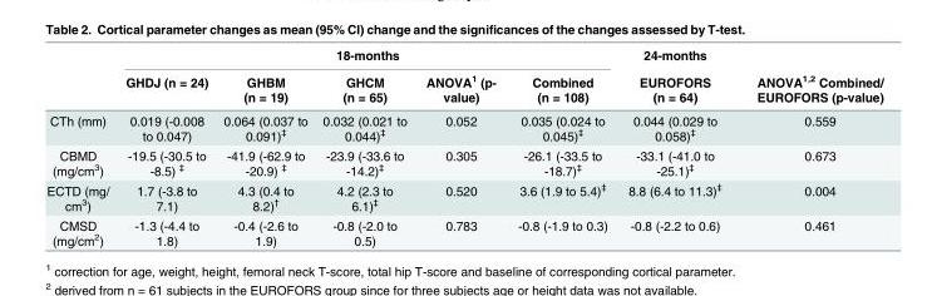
<table><thead><tr><td rowspan="2"></td><td colspan="5">18-months</td><td rowspan="2">24-months EUROFORS (n = 64)</td><td rowspan="2">ANOVA<sup>1,2</sup> Combined/ EUROFORS (p-value)</td></tr><tr><td>GHDJ (n = 24)</td><td>GHBM (n = 19)</td><td>GHCM (n = 65)</td><td>ANOVA<sup>1</sup> (p- value)</td><td>Combined (n = 108)</td></tr></thead><tbody><tr><td>CTh (mm)</td><td>0.019 (-0.008 to 0.047)</td><td>0.064 (0.037 to 0.091)<sup>‡</sup></td><td>0.032 (0.021 to 0.044)<sup>‡</sup></td><td>0.052</td><td>0.035 (0.024 to 0.045)<sup>‡</sup></td><td>0.044 (0.029 to 0.058)<sup>‡</sup></td><td>0.559</td></tr><tr><td>CBMD (mg/cm<sup>3</sup>)</td><td>-19.5 (-30.5 to -8.5) <sup>‡</sup></td><td>-41.9 (-62.9 to -20.9) <sup>‡</sup></td><td>-23.9 (-33.6 to -14.2)<sup>‡</sup></td><td>0.305</td><td>-26.1 (-33.5 to -18.7)<sup>‡</sup></td><td>-33.1 (-41.0 to -25.1)<sup>‡</sup></td><td>0.673</td></tr><tr><td>ECTD (mg/ cm<sup>3</sup>)</td><td>1.7 (-3.8 to 7.1)</td><td>4.3 (0.4 to 8.2)<sup>†</sup></td><td>4.2 (2.3 to 6.1)<sup>‡</sup></td><td>0.520</td><td>3.6 (1.9 to 5.4)<sup>‡</sup></td><td>8.8 (6.4 to 11.3)<sup>‡</sup></td><td>0.004</td></tr><tr><td>CMSD (mg/cm<sup>2</sup>)</td><td>-1.3 (-4.4 to 1.8)</td><td>-0.4 (-2.6 to 1.9)</td><td>-0.8 (-2.0 to 0.5)</td><td>0.783</td><td>-0.8 (-1.9 to 0.3)</td><td>-0.8 (-2.2 to 0.6)</td><td>0.461</td></tr></tbody></table>